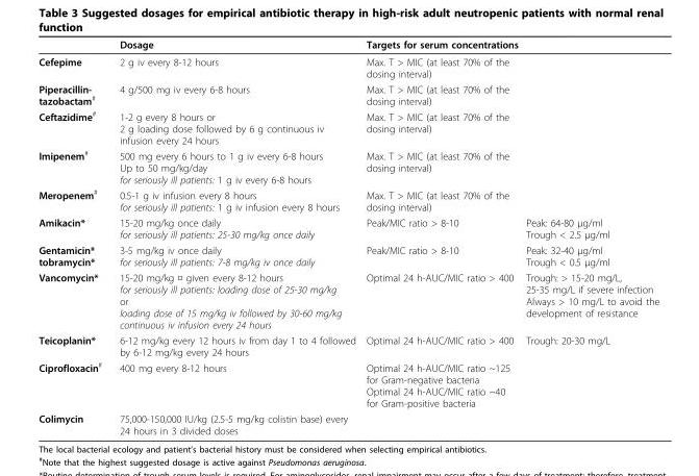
<table><thead><tr><td rowspan="2">Cefepime</td><td rowspan="2">Dosage 2 g iv every 8-12 hours</td><td colspan="2">Targets for serum concentrations</td></tr><tr><td>Max. T &gt; MIC (at least 70% of the dosing interval)</td><td></td></tr></thead><tbody><tr><td>Piperacillin- tazobactam<sup>#</sup></td><td>4 g/500 mg iv every 6-8 hours</td><td>Max. T &gt; MIC (at least 70% of the dosing interval)</td><td></td></tr><tr><td>Ceftazidime<sup>#</sup></td><td>1-2 g every 8 hours or 2 g loading dose followed by 6 g continuous iv infusion every 24 hours</td><td>Max. T &gt; MIC (at least 70% of the dosing interval)</td><td></td></tr><tr><td>Imipenem<sup>#</sup></td><td>500 mg every 6 hours to 1 g iv every 6-8 hours Up to 50 mg/kg/day for seriously ill patients: 1 g iv every 6-8 hours</td><td>Max. T &gt; MIC (at least 70% of the dosing interval)</td><td></td></tr><tr><td>Meropenem<sup>#</sup></td><td>0.5-1 g iv infusion every 8 hours for seriously ill patients: 1 g iv infusion every 8 hours</td><td>Max. T &gt; MIC (at least 70% of the dosing interval)</td><td></td></tr><tr><td>Amikacin*</td><td>15-20 mg/kg once daily for seriously ill patients: 25-30 mg/kg once daily</td><td>Peak/MIC ratio &gt; 8-10</td><td>Peak: 64-80 μg/ml Trough &lt; 2.5 μg/ml</td></tr><tr><td>Gentamicin* tobramycin*</td><td>3-5 mg/kg iv once daily for seriously ill patients: 7-8 mg/kg iv once daily</td><td>Peak/MIC ratio &gt; 8-10</td><td>Peak: 32-40 μg/ml Trough &lt; 0.5 μg/ml</td></tr><tr><td>Vancomycin*</td><td>15-20 mg/kg ¤ given every 8-12 hours for seriously ill patients: loading dose of 25-30 mg/kg or loading dose of 15 mg/kg iv followed by 30-60 mg/kg continuous iv infusion every 24 hours</td><td>Optimal 24 h-AUC/MIC ratio &gt; 400</td><td>Trough: &gt; 15-20 mg/L, 25-35 mg/L if severe infection Always &gt; 10 mg/L to avoid the development of resistance</td></tr><tr><td>Teicoplanin*</td><td>6-12 mg/kg every 12 hours iv from day 1 to 4 followed by 6-12 mg/kg every 24 hours</td><td>Optimal 24 h-AUC/MIC ratio &gt; 400</td><td>Trough: 20-30 mg/L</td></tr><tr><td>Ciprofloxacin<sup>#</sup></td><td>400 mg every 8-12 hours</td><td>Optimal 24 h-AUC/MIC ratio ~125 for Gram-negative bacteria Optimal 24 h-AUC/MIC ratio ~40 for Gram-positive bacteria</td><td></td></tr><tr><td>Colimycin</td><td>75,000-150,000 IU/kg (2.5-5 mg/kg colistin base) every 24 hours in 3 divided doses</td><td></td><td></td></tr></tbody></table>